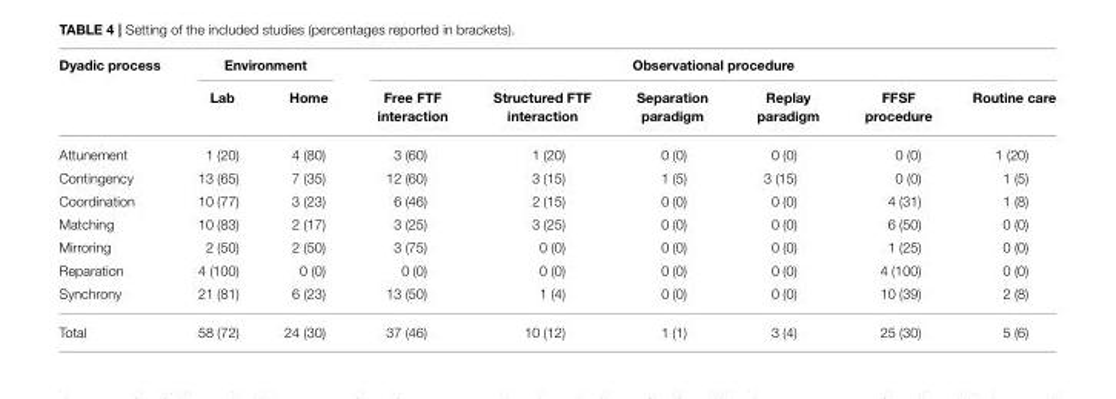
<table><thead><tr><td rowspan="2">Dyadic process</td><td colspan="2">Environment</td><td colspan="6">Observational procedure</td></tr><tr><td>Lab</td><td>Home</td><td>Free FTF interaction</td><td>Structured FTF interaction</td><td>Separation paradigm</td><td>Replay paradigm</td><td>FFSF procedure</td><td>Routine care</td></tr></thead><tbody><tr><td>Attunement</td><td>1 (20)</td><td>4 (80)</td><td>3 (60)</td><td>1 (20)</td><td>0 (0)</td><td>0 (0)</td><td>0 (0)</td><td>1 (20)</td></tr><tr><td>Contingency</td><td>13 (65)</td><td>7 (35)</td><td>12 (60)</td><td>3 (15)</td><td>1 (5)</td><td>3 (15)</td><td>0 (0)</td><td>1 (5)</td></tr><tr><td>Coordination</td><td>10 (77)</td><td>3 (23)</td><td>6 (46)</td><td>2 (15)</td><td>0 (0)</td><td>0 (0)</td><td>4 (31)</td><td>1 (8)</td></tr><tr><td>Matching</td><td>10 (83)</td><td>2 (17)</td><td>3 (25)</td><td>3 (25)</td><td>0 (0)</td><td>0 (0)</td><td>6 (50)</td><td>0 (0)</td></tr><tr><td>Mirroring</td><td>2 (50)</td><td>2 (50)</td><td>3 (75)</td><td>0 (0)</td><td>0 (0)</td><td>0 (0)</td><td>1 (25)</td><td>0 (0)</td></tr><tr><td>Reparation</td><td>4 (100)</td><td>0 (0)</td><td>0 (0)</td><td>0 (0)</td><td>0 (0)</td><td>0 (0)</td><td>4 (100)</td><td>0 (0)</td></tr><tr><td>Synchrony</td><td>21 (81)</td><td>6 (23)</td><td>13 (50)</td><td>1 (4)</td><td>0 (0)</td><td>0 (0)</td><td>10 (39)</td><td>2 (8)</td></tr><tr><td>Total</td><td>58 (72)</td><td>24 (30)</td><td>37 (46)</td><td>10 (12)</td><td>1 (1)</td><td>3 (4)</td><td>25 (30)</td><td>5 (6)</td></tr></tbody></table>